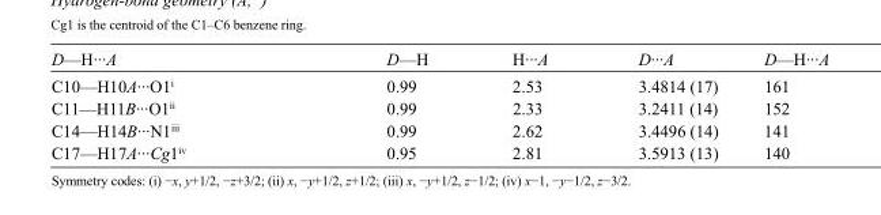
<table><tbody><tr><td>D—H···A</td><td>D—H</td><td>H···A</td><td>D···A</td><td>D—H···A</td></tr><tr><td>C10—H10A···O1<sup>i</sup></td><td>0.99</td><td>2.53</td><td>3.4814 (17)</td><td>161</td></tr><tr><td>C11—H11B···O1<sup>ii</sup></td><td>0.99</td><td>2.33</td><td>3.2411 (14)</td><td>152</td></tr><tr><td>C14—H14B···N1<sup>iii</sup></td><td>0.99</td><td>2.62</td><td>3.4496 (14)</td><td>141</td></tr><tr><td>C17—H17A···Cg1<sup>iv</sup></td><td>0.95</td><td>2.81</td><td>3.5913 (13)</td><td>140</td></tr></tbody></table>